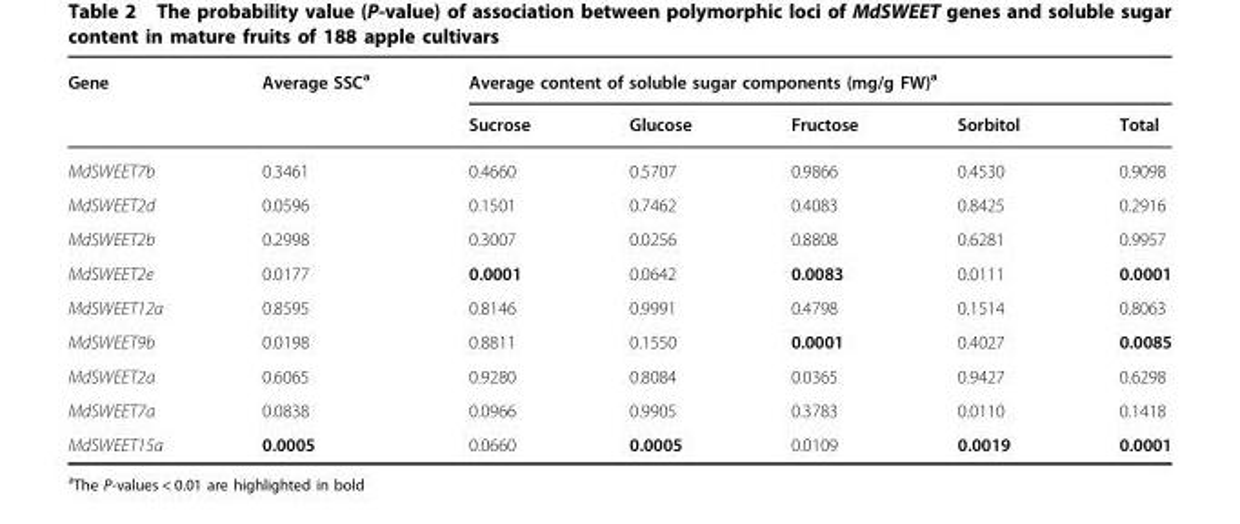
<table><thead><tr><td rowspan="2">Gene</td><td rowspan="2">Average SSC<sup>a</sup></td><td colspan="5">Average content of soluble sugar components (mg/g FW)<sup>a</sup></td></tr><tr><td>Sucrose</td><td>Glucose</td><td>Fructose</td><td>Sorbitol</td><td>Total</td></tr></thead><tbody><tr><td>MdSWEET7b</td><td>0.3461</td><td>0.4660</td><td>0.5707</td><td>0.9866</td><td>0.4530</td><td>0.9098</td></tr><tr><td>MdSWEET2d</td><td>0.0596</td><td>0.1501</td><td>0.7462</td><td>0.4083</td><td>0.8425</td><td>0.2916</td></tr><tr><td>MdSWEET2b</td><td>0.2998</td><td>0.3007</td><td>0.0256</td><td>0.8808</td><td>0.6281</td><td>0.9957</td></tr><tr><td>MdSWEET2e</td><td>0.0177</td><td>0.0001</td><td>0.0642</td><td>0.0083</td><td>0.0111</td><td>0.0001</td></tr><tr><td>MdSWEET12a</td><td>0.8595</td><td>0.8146</td><td>0.9991</td><td>0.4798</td><td>0.1514</td><td>0.8063</td></tr><tr><td>MdSWEET9b</td><td>0.0198</td><td>0.8811</td><td>0.1550</td><td>0.0001</td><td>0.4027</td><td>0.0085</td></tr><tr><td>MdSWEET2a</td><td>0.6065</td><td>0.9280</td><td>0.8084</td><td>0.0365</td><td>0.9427</td><td>0.6298</td></tr><tr><td>MdSWEET7a</td><td>0.0838</td><td>0.0966</td><td>0.9905</td><td>0.3783</td><td>0.0110</td><td>0.1418</td></tr><tr><td>MdSWEET15a</td><td>0.0005</td><td>0.0660</td><td>0.0005</td><td>0.0109</td><td>0.0019</td><td>0.0001</td></tr></tbody></table>